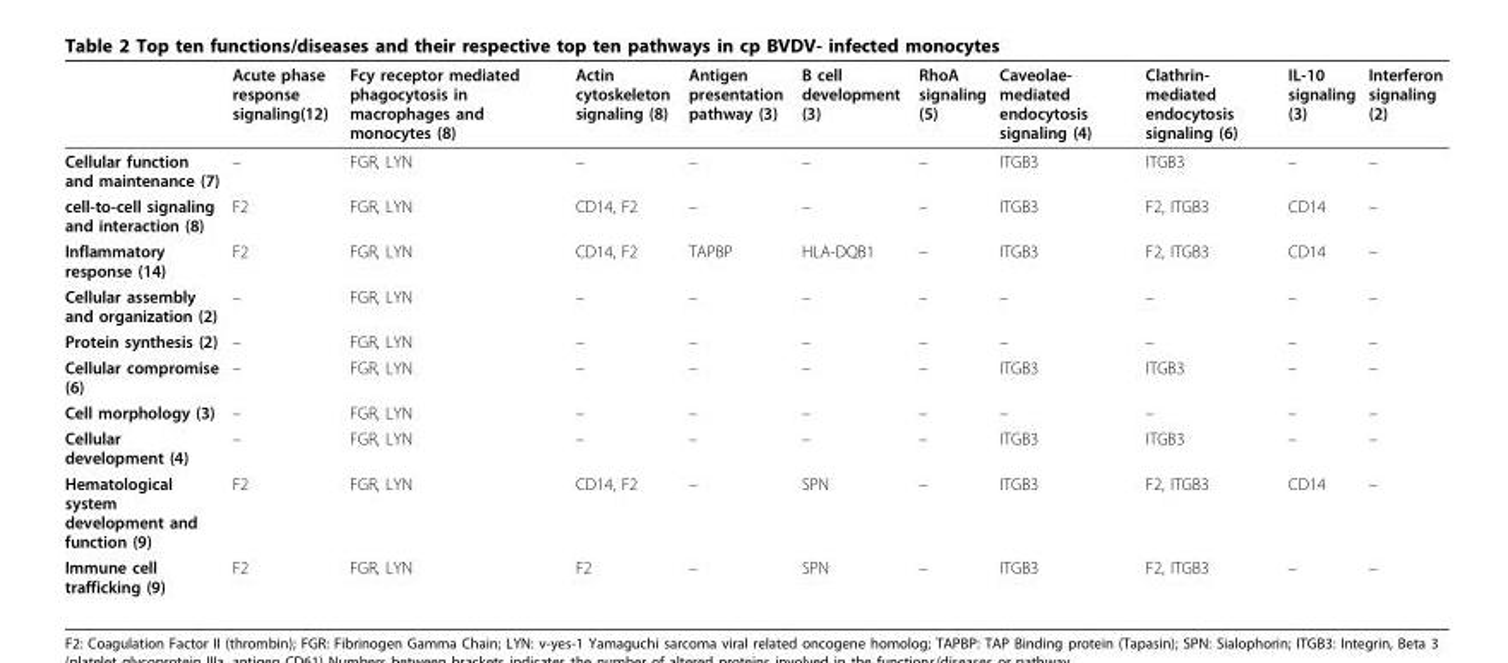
<table><thead><tr><td></td><td>Acute phase response signaling(12)</td><td>Fcy receptor mediated phagocytosis in macrophages and monocytes (8)</td><td>Actin cytoskeleton signaling (8)</td><td>Antigen presentation pathway (3)</td><td>B cell development (3)</td><td>RhoA signaling (5)</td><td>Caveolae- mediated endocytosis signaling (4)</td><td>Clathrin- mediated endocytosis signaling (6)</td><td>IL-10 signaling (3)</td><td>Interferon signaling (2)</td></tr></thead><tbody><tr><td>Cellular function and maintenance (7)</td><td>–</td><td>FGR, LYN</td><td>–</td><td>–</td><td>–</td><td>–</td><td>ITGB3</td><td>ITGB3</td><td>–</td><td>–</td></tr><tr><td>cell-to-cell signaling and interaction (8)</td><td>F2</td><td>FGR, LYN</td><td>CD14, F2</td><td>–</td><td>–</td><td>–</td><td>ITGB3</td><td>F2, ITGB3</td><td>CD14</td><td>–</td></tr><tr><td>Inflammatory response (14)</td><td>F2</td><td>FGR, LYN</td><td>CD14, F2</td><td>TAPBP</td><td>HLA-DQB1</td><td>–</td><td>ITGB3</td><td>F2, ITGB3</td><td>CD14</td><td>–</td></tr><tr><td>Cellular assembly and organization (2)</td><td>–</td><td>FGR, LYN</td><td>–</td><td>–</td><td>–</td><td>–</td><td>–</td><td>–</td><td>–</td><td>–</td></tr><tr><td>Protein synthesis (2)</td><td>–</td><td>FGR, LYN</td><td>–</td><td>–</td><td>–</td><td>–</td><td>–</td><td>–</td><td>–</td><td>–</td></tr><tr><td>Cellular compromise (6)</td><td>–</td><td>FGR, LYN</td><td>–</td><td>–</td><td>–</td><td>–</td><td>ITGB3</td><td>ITGB3</td><td>–</td><td>–</td></tr><tr><td>Cell morphology (3)</td><td>–</td><td>FGR, LYN</td><td>–</td><td>–</td><td>–</td><td>–</td><td>–</td><td>–</td><td>–</td><td>–</td></tr><tr><td>Cellular development (4)</td><td>–</td><td>FGR, LYN</td><td>–</td><td>–</td><td>–</td><td>–</td><td>ITGB3</td><td>ITGB3</td><td>–</td><td>–</td></tr><tr><td>Hematological system development and function (9)</td><td>F2</td><td>FGR, LYN</td><td>CD14, F2</td><td>–</td><td>SPN</td><td>–</td><td>ITGB3</td><td>F2, ITGB3</td><td>CD14</td><td>–</td></tr><tr><td>Immune cell trafficking (9)</td><td>F2</td><td>FGR, LYN</td><td>F2</td><td>–</td><td>SPN</td><td>–</td><td>ITGB3</td><td>F2, ITGB3</td><td>–</td><td>–</td></tr></tbody></table>